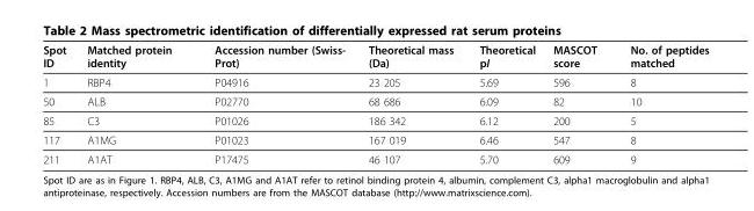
<table><thead><tr><td>Spot ID</td><td>Matched protein identity</td><td>Accession number (Swiss- Prot)</td><td>Theoretical mass (Da)</td><td>Theoretical pI</td><td>MASCOT score</td><td>No. of peptides matched</td></tr></thead><tbody><tr><td>1</td><td>RBP4</td><td>P04916</td><td>23 205</td><td>5.69</td><td>596</td><td>8</td></tr><tr><td>50</td><td>ALB</td><td>P02770</td><td>68 686</td><td>6.09</td><td>82</td><td>10</td></tr><tr><td>85</td><td>C3</td><td>P01026</td><td>186 342</td><td>6.12</td><td>200</td><td>5</td></tr><tr><td>117</td><td>A1MG</td><td>P01023</td><td>167 019</td><td>6.46</td><td>547</td><td>8</td></tr><tr><td>211</td><td>A1AT</td><td>P17475</td><td>46 107</td><td>5.70</td><td>609</td><td>9</td></tr></tbody></table>